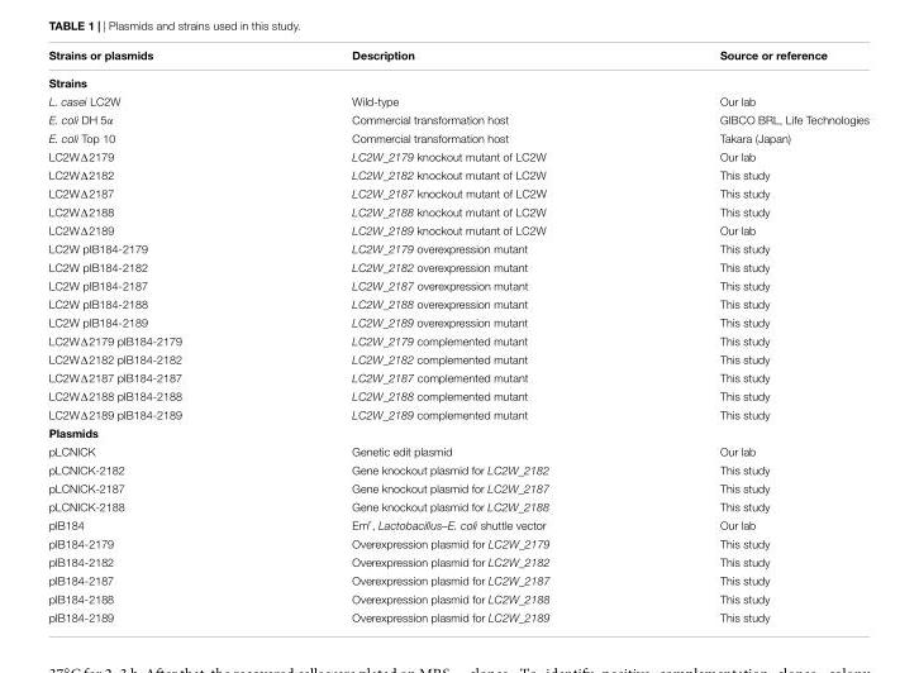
<table><thead><tr><td>Strains or plasmids</td><td>Description</td><td>Source or reference</td></tr></thead><tbody><tr><td colspan="3">Strains</td></tr><tr><td>L. casei LC2W</td><td>Wild-type</td><td>Our lab</td></tr><tr><td>E. coli DH 5α</td><td>Commercial transformation host</td><td>GIBCO BRL, Life Technologies</td></tr><tr><td>E. coli Top 10</td><td>Commercial transformation host</td><td>Takara (Japan)</td></tr><tr><td>LC2WΔ2179</td><td>LC2W_2179 knockout mutant of LC2W</td><td>Our lab</td></tr><tr><td>LC2WΔ2182</td><td>LC2W_2182 knockout mutant of LC2W</td><td>This study</td></tr><tr><td>LC2WΔ2187</td><td>LC2W_2187 knockout mutant of LC2W</td><td>This study</td></tr><tr><td>LC2WΔ2188</td><td>LC2W_2188 knockout mutant of LC2W</td><td>This study</td></tr><tr><td>LC2WΔ2189</td><td>LC2W_2189 knockout mutant of LC2W</td><td>Our lab</td></tr><tr><td>LC2W pIB184-2179</td><td>LC2W_2179 overexpression mutant</td><td>This study</td></tr><tr><td>LC2W pIB184-2182</td><td>LC2W_2182 overexpression mutant</td><td>This study</td></tr><tr><td>LC2W pIB184-2187</td><td>LC2W_2187 overexpression mutant</td><td>This study</td></tr><tr><td>LC2W pIB184-2188</td><td>LC2W_2188 overexpression mutant</td><td>This study</td></tr><tr><td>LC2W pIB184-2189</td><td>LC2W_2189 overexpression mutant</td><td>This study</td></tr><tr><td>LC2WΔ2179 pIB184-2179</td><td>LC2W_2179 complemented mutant</td><td>This study</td></tr><tr><td>LC2WΔ2182 pIB184-2182</td><td>LC2W_2182 complemented mutant</td><td>This study</td></tr><tr><td>LC2WΔ2187 pIB184-2187</td><td>LC2W_2187 complemented mutant</td><td>This study</td></tr><tr><td>LC2WΔ2188 pIB184-2188</td><td>LC2W_2188 complemented mutant</td><td>This study</td></tr><tr><td>LC2WΔ2189 pIB184-2189</td><td>LC2W_2189 complemented mutant</td><td>This study</td></tr><tr><td colspan="3">Plasmids</td></tr><tr><td>pLCNICK</td><td>Genetic edit plasmid</td><td>Our lab</td></tr><tr><td>pLCNICK-2182</td><td>Gene knockout plasmid for LC2W_2182</td><td>This study</td></tr><tr><td>pLCNICK-2187</td><td>Gene knockout plasmid for LC2W_2187</td><td>This study</td></tr><tr><td>pLCNICK-2188</td><td>Gene knockout plasmid for LC2W_2188</td><td>This study</td></tr><tr><td>pIB184</td><td>Em<sup>r</sup>, Lactobacillus–E. coli shuttle vector</td><td>Our lab</td></tr><tr><td>pIB184-2179</td><td>Overexpression plasmid for LC2W_2179</td><td>This study</td></tr><tr><td>pIB184-2182</td><td>Overexpression plasmid for LC2W_2182</td><td>This study</td></tr><tr><td>pIB184-2187</td><td>Overexpression plasmid for LC2W_2187</td><td>This study</td></tr><tr><td>pIB184-2188</td><td>Overexpression plasmid for LC2W_2188</td><td>This study</td></tr><tr><td>pIB184-2189</td><td>Overexpression plasmid for LC2W_2189</td><td>This study</td></tr></tbody></table>